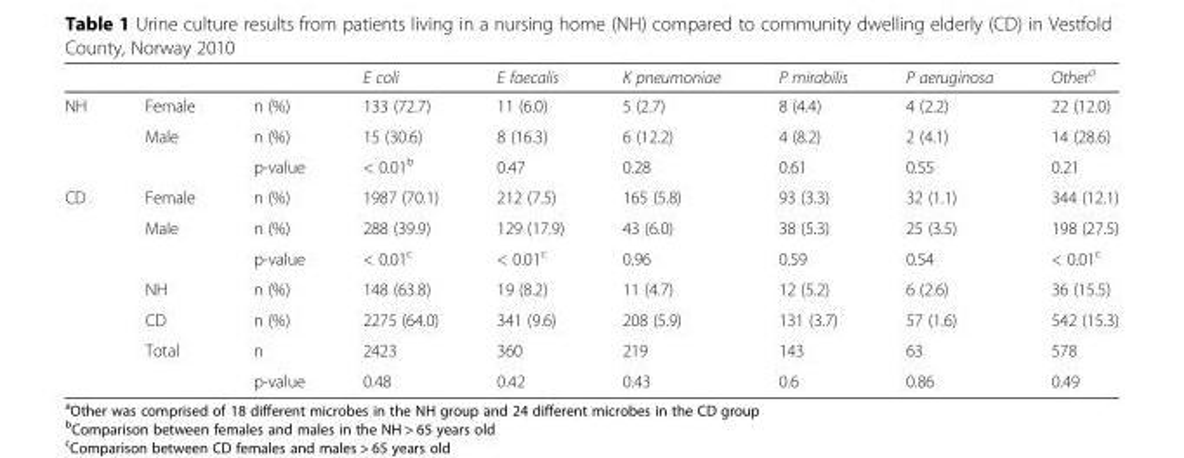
<table><thead><tr><td></td><td></td><td></td><td>E coli</td><td>E faecalis</td><td>K pneumoniae</td><td>P mirabilis</td><td>P aeruginosa</td><td>Other<sup>a</sup></td></tr></thead><tbody><tr><td rowspan="3">NH</td><td>Female</td><td>n (%)</td><td>133 (72.7)</td><td>11 (6.0)</td><td>5 (2.7)</td><td>8 (4.4)</td><td>4 (2.2)</td><td>22 (12.0)</td></tr><tr><td>Male</td><td>n (%)</td><td>15 (30.6)</td><td>8 (16.3)</td><td>6 (12.2)</td><td>4 (8.2)</td><td>2 (4.1)</td><td>14 (28.6)</td></tr><tr><td></td><td>p-value</td><td>&lt; 0.01<sup>b</sup></td><td>0.47</td><td>0.28</td><td>0.61</td><td>0.55</td><td>0.21</td></tr><tr><td rowspan="7">CD</td><td>Female</td><td>n (%)</td><td>1987 (70.1)</td><td>212 (7.5)</td><td>165 (5.8)</td><td>93 (3.3)</td><td>32 (1.1)</td><td>344 (12.1)</td></tr><tr><td>Male</td><td>n (%)</td><td>288 (39.9)</td><td>129 (17.9)</td><td>43 (6.0)</td><td>38 (5.3)</td><td>25 (3.5)</td><td>198 (27.5)</td></tr><tr><td></td><td>p-value</td><td>&lt; 0.01<sup>c</sup></td><td>&lt; 0.01<sup>c</sup></td><td>0.96</td><td>0.59</td><td>0.54</td><td>&lt; 0.01<sup>c</sup></td></tr><tr><td>NH</td><td>n (%)</td><td>148 (63.8)</td><td>19 (8.2)</td><td>11 (4.7)</td><td>12 (5.2)</td><td>6 (2.6)</td><td>36 (15.5)</td></tr><tr><td>CD</td><td>n (%)</td><td>2275 (64.0)</td><td>341 (9.6)</td><td>208 (5.9)</td><td>131 (3.7)</td><td>57 (1.6)</td><td>542 (15.3)</td></tr><tr><td>Total</td><td>n</td><td>2423</td><td>360</td><td>219</td><td>143</td><td>63</td><td>578</td></tr><tr><td></td><td>p-value</td><td>0.48</td><td>0.42</td><td>0.43</td><td>0.6</td><td>0.86</td><td>0.49</td></tr></tbody></table>